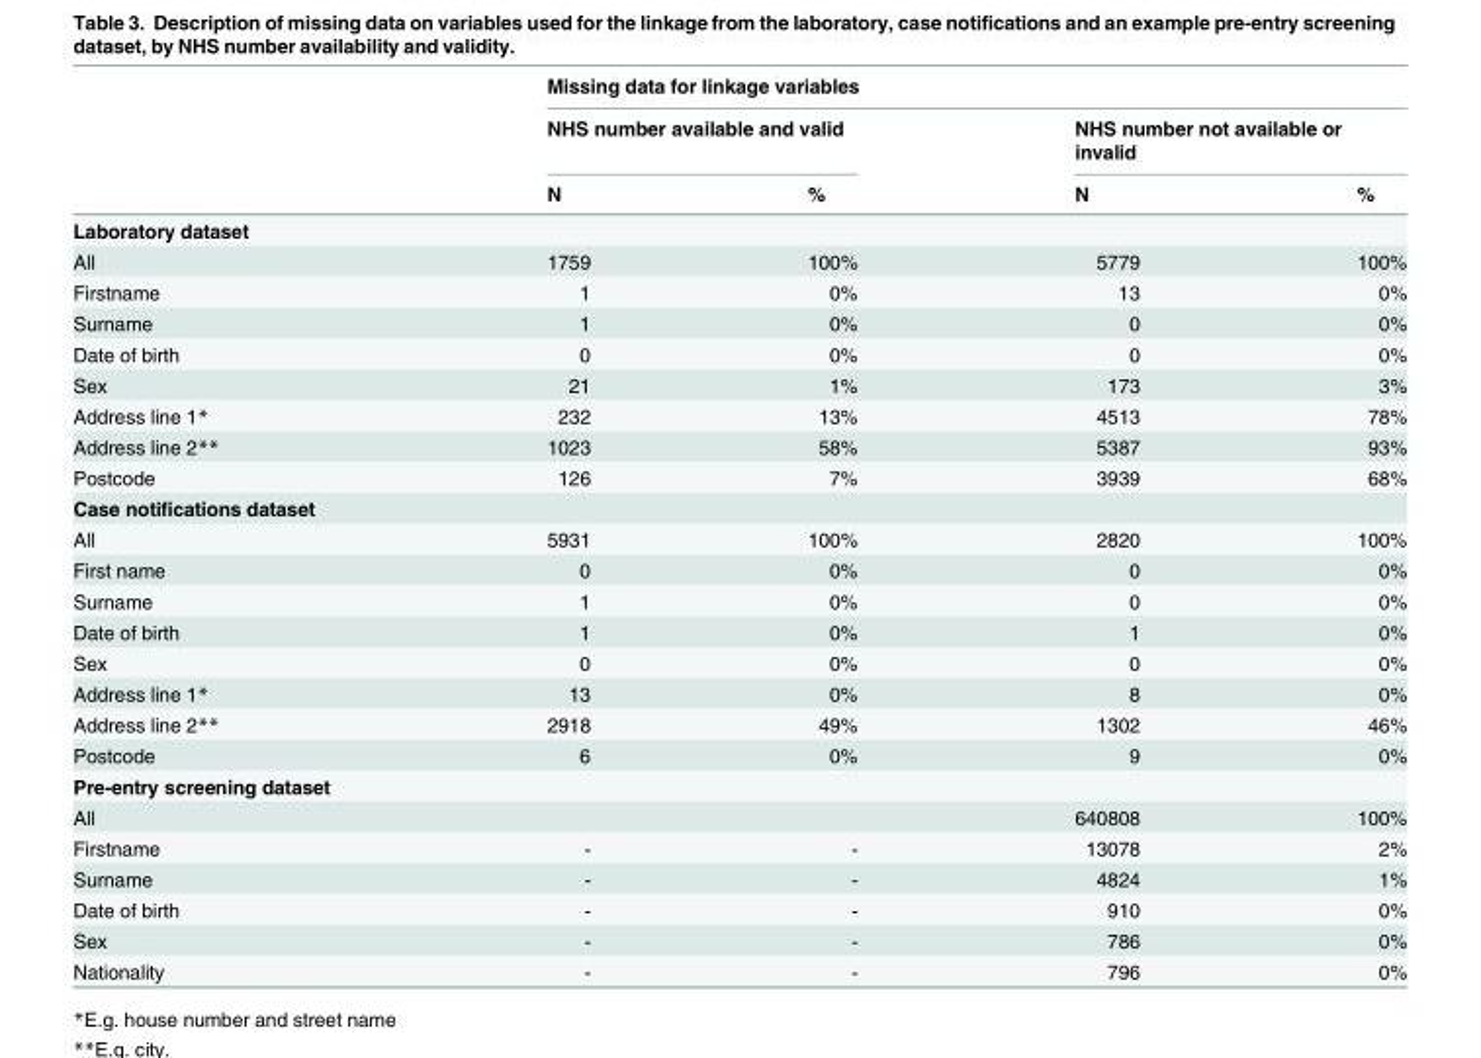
<table><thead><tr><td rowspan="3"></td><td colspan="4">Missing data for linkage variables</td></tr><tr><td colspan="2">NHS number available and valid</td><td colspan="2">NHS number not available or invalid</td></tr><tr><td>N</td><td>%</td><td>N</td><td>%</td></tr></thead><tbody><tr><td colspan="5">Laboratory dataset</td></tr><tr><td>All</td><td>1759</td><td>100%</td><td>5779</td><td>100%</td></tr><tr><td>Firstname</td><td>1</td><td>0%</td><td>13</td><td>0%</td></tr><tr><td>Surname</td><td>1</td><td>0%</td><td>0</td><td>0%</td></tr><tr><td>Date of birth</td><td>0</td><td>0%</td><td>0</td><td>0%</td></tr><tr><td>Sex</td><td>21</td><td>1%</td><td>173</td><td>3%</td></tr><tr><td>Address line 1*</td><td>232</td><td>13%</td><td>4513</td><td>78%</td></tr><tr><td>Address line 2**</td><td>1023</td><td>58%</td><td>5387</td><td>93%</td></tr><tr><td>Postcode</td><td>126</td><td>7%</td><td>3939</td><td>68%</td></tr><tr><td colspan="5">Case notifications dataset</td></tr><tr><td>All</td><td>5931</td><td>100%</td><td>2820</td><td>100%</td></tr><tr><td>First name</td><td>0</td><td>0%</td><td>0</td><td>0%</td></tr><tr><td>Surname</td><td>1</td><td>0%</td><td>0</td><td>0%</td></tr><tr><td>Date of birth</td><td>1</td><td>0%</td><td>1</td><td>0%</td></tr><tr><td>Sex</td><td>0</td><td>0%</td><td>0</td><td>0%</td></tr><tr><td>Address line 1*</td><td>13</td><td>0%</td><td>8</td><td>0%</td></tr><tr><td>Address line 2**</td><td>2918</td><td>49%</td><td>1302</td><td>46%</td></tr><tr><td>Postcode</td><td>6</td><td>0%</td><td>9</td><td>0%</td></tr><tr><td colspan="5">Pre-entry screening dataset</td></tr><tr><td>All</td><td></td><td></td><td>640808</td><td>100%</td></tr><tr><td>Firstname</td><td>-</td><td>-</td><td>13078</td><td>2%</td></tr><tr><td>Surname</td><td>-</td><td>-</td><td>4824</td><td>1%</td></tr><tr><td>Date of birth</td><td>-</td><td>-</td><td>910</td><td>0%</td></tr><tr><td>Sex</td><td>-</td><td>-</td><td>786</td><td>0%</td></tr><tr><td>Nationality</td><td>-</td><td>-</td><td>796</td><td>0%</td></tr></tbody></table>